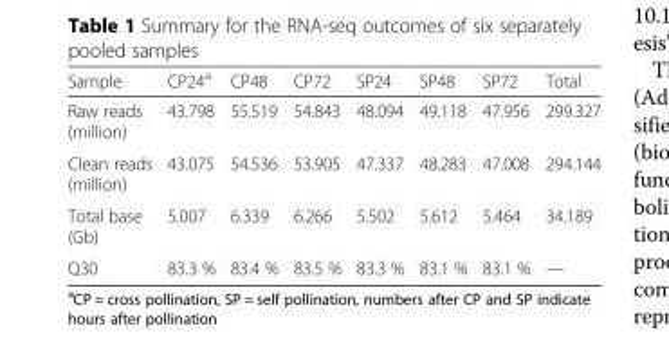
<table><thead><tr><td>Sample</td><td>CP24<sup>a</sup></td><td>CP48</td><td>CP72</td><td>SP24</td><td>SP48</td><td>SP72</td><td>Total</td></tr></thead><tbody><tr><td>Raw reads (million)</td><td>43.798</td><td>55.519</td><td>54.843</td><td>48.094</td><td>49.118</td><td>47.956</td><td>299.327</td></tr><tr><td>Clean reads (million)</td><td>43.075</td><td>54.536</td><td>53.905</td><td>47.337</td><td>48.283</td><td>47.008</td><td>294.144</td></tr><tr><td>Total base (Gb)</td><td>5.007</td><td>6.339</td><td>6.266</td><td>5.502</td><td>5.612</td><td>5.464</td><td>34.189</td></tr><tr><td>Q30</td><td>83.3 %</td><td>83.4 %</td><td>83.5 %</td><td>83.3 %</td><td>83.1 %</td><td>83.1 %</td><td>—</td></tr></tbody></table>